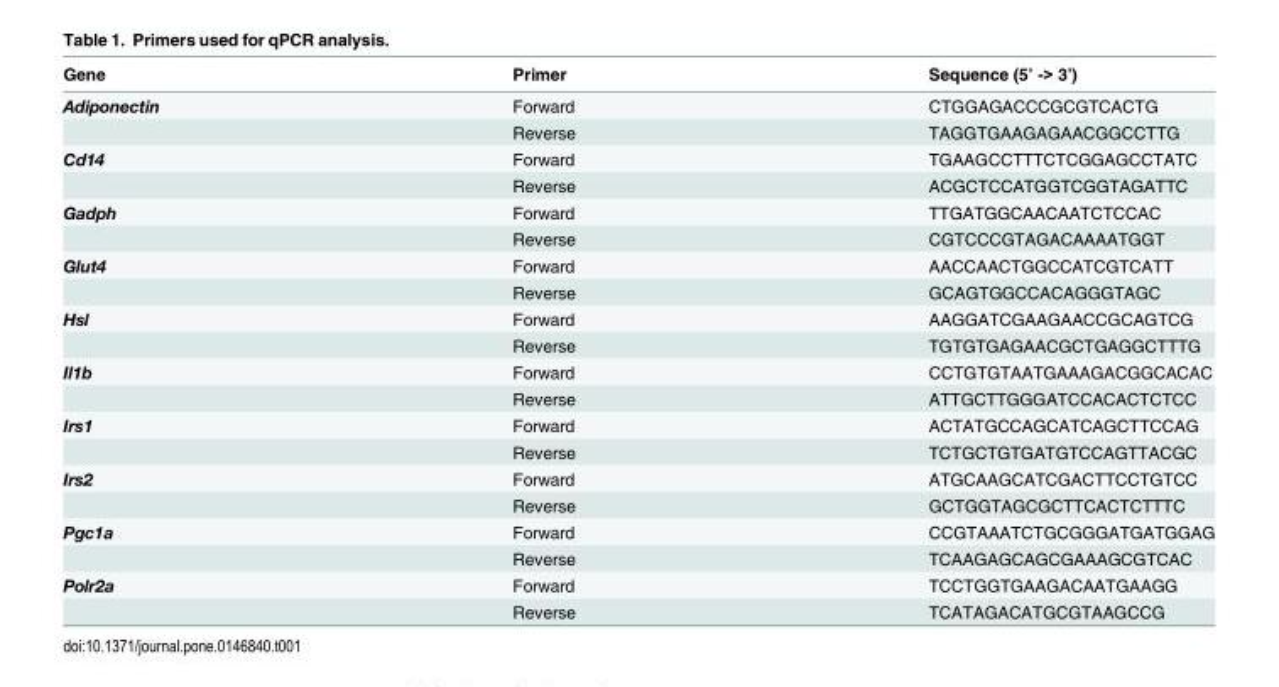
<table><thead><tr><td>Gene</td><td>Primer</td><td>Sequence (5’ -&gt; 3’)</td></tr></thead><tbody><tr><td rowspan="2">Adiponectin</td><td>Forward</td><td>CTGGAGACCCGCGTCACTG</td></tr><tr><td>Reverse</td><td>TAGGTGAAGAGAACGGCCTTG</td></tr><tr><td rowspan="2">Cd14</td><td>Forward</td><td>TGAAGCCTTTCTCGGAGCCTATC</td></tr><tr><td>Reverse</td><td>ACGCTCCATGGTCGGTAGATTC</td></tr><tr><td rowspan="2">Gadph</td><td>Forward</td><td>TTGATGGCAACAATCTCCAC</td></tr><tr><td>Reverse</td><td>CGTCCCGTAGACAAAATGGT</td></tr><tr><td rowspan="2">Glut4</td><td>Forward</td><td>AACCAACTGGCCATCGTCATT</td></tr><tr><td>Reverse</td><td>GCAGTGGCCACAGGGTAGC</td></tr><tr><td rowspan="2">Hsl</td><td>Forward</td><td>AAGGATCGAAGAACCGCAGTCG</td></tr><tr><td>Reverse</td><td>TGTGTGAGAACGCTGAGGCTTTG</td></tr><tr><td rowspan="2">Il1b</td><td>Forward</td><td>CCTGTGTAATGAAAGACGGCACAC</td></tr><tr><td>Reverse</td><td>ATTGCTTGGGATCCACACTCTCC</td></tr><tr><td rowspan="2">Irs1</td><td>Forward</td><td>ACTATGCCAGCATCAGCTTCCAG</td></tr><tr><td>Reverse</td><td>TCTGCTGTGATGTCCAGTTACGC</td></tr><tr><td rowspan="2">Irs2</td><td>Forward</td><td>ATGCAAGCATCGACTTCCTGTCC</td></tr><tr><td>Reverse</td><td>GCTGGTAGCGCTTCACTCTTTC</td></tr><tr><td rowspan="2">Pgc1a</td><td>Forward</td><td>CCGTAAATCTGCGGGATGATGGAG</td></tr><tr><td>Reverse</td><td>TCAAGAGCAGCGAAAGCGTCAC</td></tr><tr><td rowspan="2">Polr2a</td><td>Forward</td><td>TCCTGGTGAAGACAATGAAGG</td></tr><tr><td>Reverse</td><td>TCATAGACATGCGTAAGCCG</td></tr></tbody></table>